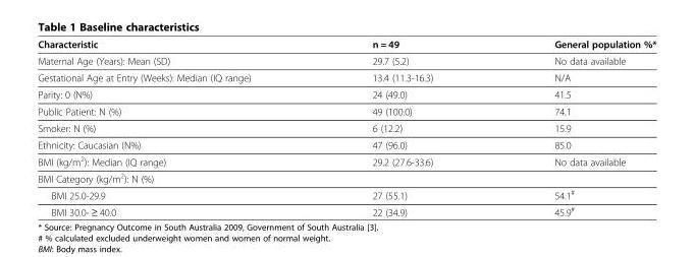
<table><thead><tr><td>Characteristic</td><td>n = 49</td><td>General population %*</td></tr></thead><tbody><tr><td>Maternal Age (Years): Mean (SD)</td><td>29.7 (5.2)</td><td>No data available</td></tr><tr><td>Gestational Age at Entry (Weeks): Median (IQ range)</td><td>13.4 (11.3-16.3)</td><td>N/A</td></tr><tr><td>Parity: 0 (N%)</td><td>24 (49.0)</td><td>41.5</td></tr><tr><td>Public Patient: N (%)</td><td>49 (100.0)</td><td>74.1</td></tr><tr><td>Smoker: N (%)</td><td>6 (12.2)</td><td>15.9</td></tr><tr><td>Ethnicity: Caucasian (N%)</td><td>47 (96.0)</td><td>85.0</td></tr><tr><td>BMI (kg/m<sup>2</sup>): Median (IQ range)</td><td>29.2 (27.6-33.6)</td><td>No data available</td></tr><tr><td colspan="3">BMI Category (kg/m<sup>2</sup>): N (%)</td></tr><tr><td>BMI 25.0-29.9</td><td>27 (55.1)</td><td>54.1<sup>#</sup></td></tr><tr><td>BMI 30.0- ≥ 40.0</td><td>22 (34.9)</td><td>45.9<sup>#</sup></td></tr></tbody></table>